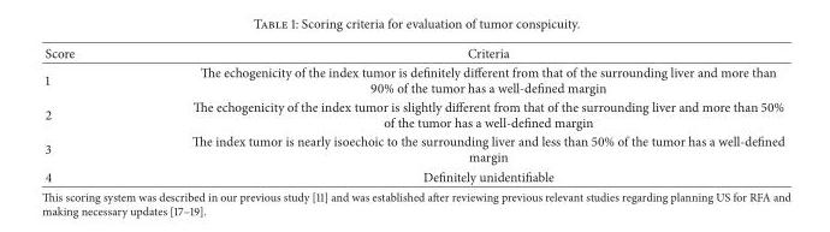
<table><thead><tr><td>Score</td><td>Criteria</td></tr></thead><tbody><tr><td>1</td><td>The echogenicity of the index tumor is definitely different from that of the surrounding liver and more than 90% of the tumor has a well-defined margin</td></tr><tr><td>2</td><td>The echogenicity of the index tumor is slightly different from that of the surrounding liver and more than 50% of the tumor has a well-defined margin</td></tr><tr><td>3</td><td>The index tumor is nearly isoechoic to the surrounding liver and less than 50% of the tumor has a well-defined margin</td></tr><tr><td>4</td><td>Definitely unidentifiable</td></tr></tbody></table>